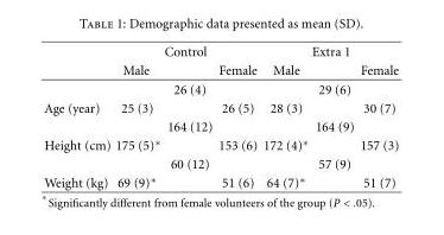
<table><thead><tr><td rowspan="2"></td><td colspan="3">Control</td><td colspan="3">Extra 1</td></tr><tr><td>Male</td><td></td><td>Female</td><td>Male</td><td></td><td>Female</td></tr></thead><tbody><tr><td></td><td></td><td>26 (4)</td><td></td><td></td><td>29 (6)</td><td></td></tr><tr><td rowspan="2">Age (year)</td><td>25 (3)</td><td></td><td>26 (5)</td><td>28 (3)</td><td></td><td>30 (7)</td></tr><tr><td></td><td>164 (12)</td><td></td><td></td><td>164 (9)</td><td></td></tr><tr><td rowspan="2">Height (cm)</td><td>175 (5)∗</td><td></td><td>153 (6)</td><td>172 (4)∗</td><td></td><td>157 (3)</td></tr><tr><td></td><td>60 (12)</td><td></td><td></td><td>57 (9)</td><td></td></tr><tr><td>Weight (kg)</td><td>69 (9)∗</td><td></td><td>51 (6)</td><td>64 (7)∗</td><td></td><td>51 (7)</td></tr></tbody></table>